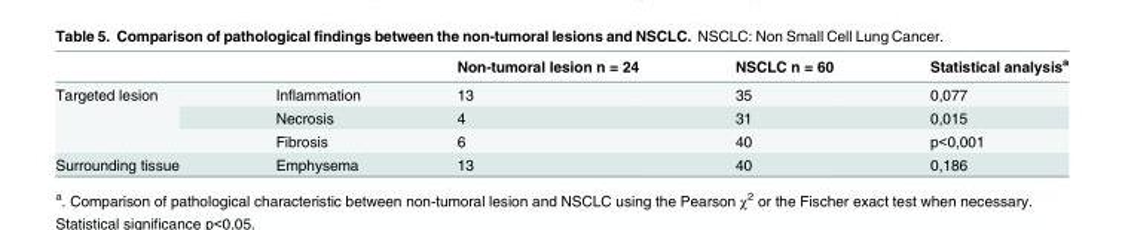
<table><thead><tr><td></td><td></td><td>Non-tumoral lesion n = 24</td><td>NSCLC n = 60</td><td>Statistical analysis<sup>a</sup></td></tr></thead><tbody><tr><td rowspan="3">Targeted lesion</td><td>Inflammation</td><td>13</td><td>35</td><td>0,077</td></tr><tr><td>Necrosis</td><td>4</td><td>31</td><td>0,015</td></tr><tr><td>Fibrosis</td><td>6</td><td>40</td><td>p&lt;0,001</td></tr><tr><td>Surrounding tissue</td><td>Emphysema</td><td>13</td><td>40</td><td>0,186</td></tr></tbody></table>